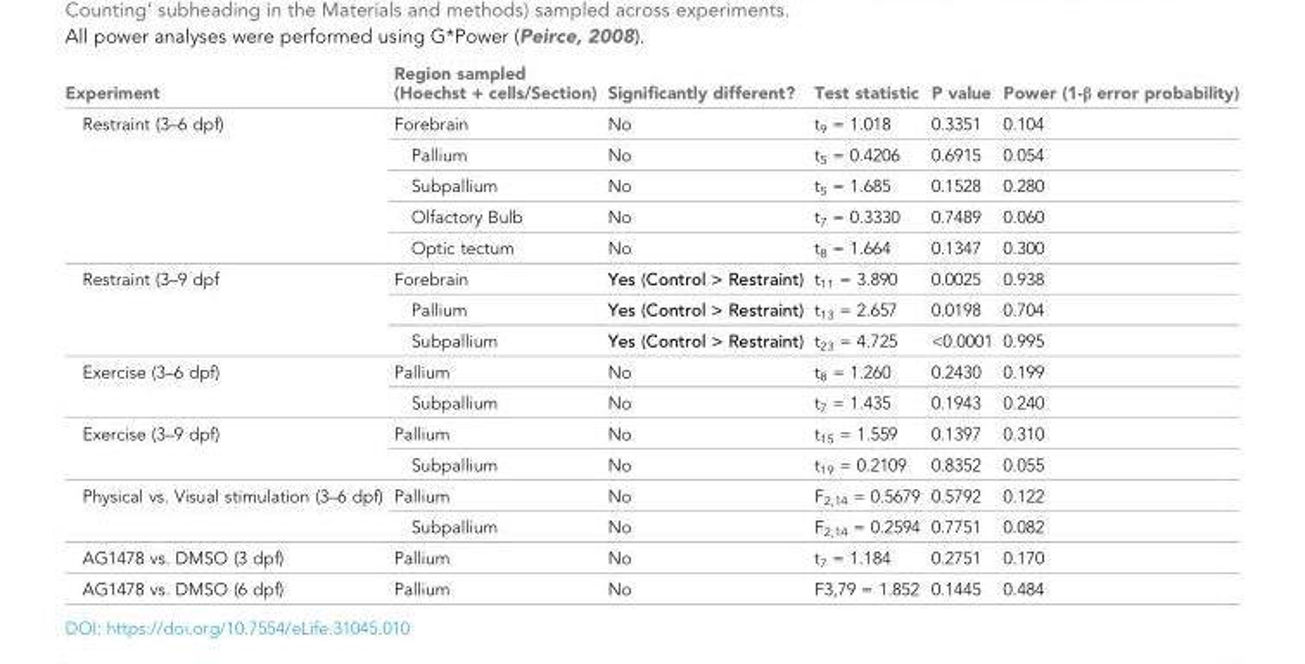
<table><thead><tr><td>Experiment</td><td>Region sampled (Hoechst + cells/Section)</td><td>Significantly different?</td><td>Test statistic</td><td>P value</td><td>Power (1-β error probability)</td></tr></thead><tbody><tr><td rowspan="5">Restraint (3–6 dpf)</td><td>Forebrain</td><td>No</td><td>t<sub>9</sub> = 1.018</td><td>0.3351</td><td>0.104</td></tr><tr><td>Pallium</td><td>No</td><td>t<sub>5</sub> = 0.4206</td><td>0.6915</td><td>0.054</td></tr><tr><td>Subpallium</td><td>No</td><td>t<sub>5</sub> = 1.685</td><td>0.1528</td><td>0.280</td></tr><tr><td>Olfactory Bulb</td><td>No</td><td>t<sub>7</sub> = 0.3330</td><td>0.7489</td><td>0.060</td></tr><tr><td>Optic tectum</td><td>No</td><td>t<sub>8</sub> = 1.664</td><td>0.1347</td><td>0.300</td></tr><tr><td rowspan="3">Restraint (3–9 dpf</td><td>Forebrain</td><td>Yes (Control &gt; Restraint)</td><td>t<sub>11</sub> = 3.890</td><td>0.0025</td><td>0.938</td></tr><tr><td>Pallium</td><td>Yes (Control &gt; Restraint)</td><td>t<sub>13</sub> = 2.657</td><td>0.0198</td><td>0.704</td></tr><tr><td>Subpallium</td><td>Yes (Control &gt; Restraint)</td><td>t<sub>23</sub> = 4.725</td><td>&lt;0.0001</td><td>0.995</td></tr><tr><td rowspan="2">Exercise (3–6 dpf)</td><td>Pallium</td><td>No</td><td>t<sub>8</sub> = 1.260</td><td>0.2430</td><td>0.199</td></tr><tr><td>Subpallium</td><td>No</td><td>t<sub>7</sub> = 1.435</td><td>0.1943</td><td>0.240</td></tr><tr><td rowspan="2">Exercise (3–9 dpf)</td><td>Pallium</td><td>No</td><td>t<sub>15</sub> = 1.559</td><td>0.1397</td><td>0.310</td></tr><tr><td>Subpallium</td><td>No</td><td>t<sub>19</sub> = 0.2109</td><td>0.8352</td><td>0.055</td></tr><tr><td rowspan="2">Physical vs. Visual stimulation (3–6 dpf)</td><td>Pallium</td><td>No</td><td>F<sub>2,14</sub> = 0.5679</td><td>0.5792</td><td>0.122</td></tr><tr><td>Subpallium</td><td>No</td><td>F<sub>2,14</sub> = 0.2594</td><td>0.7751</td><td>0.082</td></tr><tr><td>AG1478 vs. DMSO (3 dpf)</td><td>Pallium</td><td>No</td><td>t<sub>7</sub> = 1.184</td><td>0.2751</td><td>0.170</td></tr><tr><td>AG1478 vs. DMSO (6 dpf)</td><td>Pallium</td><td>No</td><td>F3,79 = 1.852</td><td>0.1445</td><td>0.484</td></tr></tbody></table>